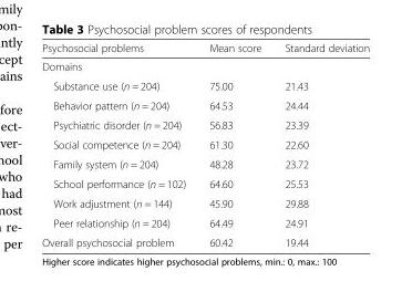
<table><thead><tr><td>Psychosocial problems</td><td>Mean score</td><td>Standard deviation</td></tr></thead><tbody><tr><td colspan="3">Domains</td></tr><tr><td>Substance use (n = 204)</td><td>75.00</td><td>21.43</td></tr><tr><td>Behavior pattern (n = 204)</td><td>64.53</td><td>24.44</td></tr><tr><td>Psychiatric disorder (n = 204)</td><td>56.83</td><td>23.39</td></tr><tr><td>Social competence (n = 204)</td><td>61.30</td><td>22.60</td></tr><tr><td>Family system (n = 204)</td><td>48.28</td><td>23.72</td></tr><tr><td>School performance (n = 102)</td><td>64.60</td><td>25.53</td></tr><tr><td>Work adjustment (n = 144)</td><td>45.90</td><td>29.88</td></tr><tr><td>Peer relationship (n = 204)</td><td>64.49</td><td>24.91</td></tr><tr><td>Overall psychosocial problem</td><td>60.42</td><td>19.44</td></tr></tbody></table>